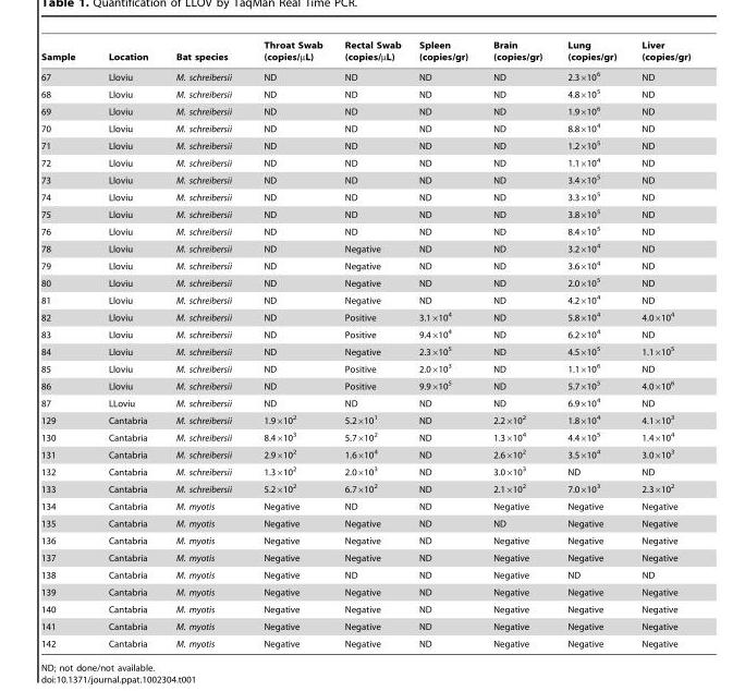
<table><thead><tr><td>Sample</td><td>Location</td><td>Bat species</td><td>Throat Swab (copies/µL)</td><td>Rectal Swab (copies/µL)</td><td>Spleen (copies/gr)</td><td>Brain (copies/gr)</td><td>Lung (copies/gr)</td><td>Liver (copies/gr)</td></tr></thead><tbody><tr><td>67</td><td>Lloviu</td><td>M. schreibersii</td><td>ND</td><td>ND</td><td>ND</td><td>ND</td><td>2.3×10<sup>6</sup></td><td>ND</td></tr><tr><td>68</td><td>Lloviu</td><td>M. schreibersii</td><td>ND</td><td>ND</td><td>ND</td><td>ND</td><td>4.8×10<sup>5</sup></td><td>ND</td></tr><tr><td>69</td><td>Lloviu</td><td>M. schreibersii</td><td>ND</td><td>ND</td><td>ND</td><td>ND</td><td>1.9×10<sup>6</sup></td><td>ND</td></tr><tr><td>70</td><td>Lloviu</td><td>M. schreibersii</td><td>ND</td><td>ND</td><td>ND</td><td>ND</td><td>8.8×10<sup>4</sup></td><td>ND</td></tr><tr><td>71</td><td>Lloviu</td><td>M. schreibersii</td><td>ND</td><td>ND</td><td>ND</td><td>ND</td><td>1.2×10<sup>5</sup></td><td>ND</td></tr><tr><td>72</td><td>Lloviu</td><td>M. schreibersii</td><td>ND</td><td>ND</td><td>ND</td><td>ND</td><td>1.1×10<sup>4</sup></td><td>ND</td></tr><tr><td>73</td><td>Lloviu</td><td>M. schreibersii</td><td>ND</td><td>ND</td><td>ND</td><td>ND</td><td>3.4×10<sup>5</sup></td><td>ND</td></tr><tr><td>74</td><td>Lloviu</td><td>M. schreibersii</td><td>ND</td><td>ND</td><td>ND</td><td>ND</td><td>3.3×10<sup>5</sup></td><td>ND</td></tr><tr><td>75</td><td>Lloviu</td><td>M. schreibersii</td><td>ND</td><td>ND</td><td>ND</td><td>ND</td><td>3.8×10<sup>5</sup></td><td>ND</td></tr><tr><td>76</td><td>Lloviu</td><td>M. schreibersii</td><td>ND</td><td>ND</td><td>ND</td><td>ND</td><td>8.4×10<sup>5</sup></td><td>ND</td></tr><tr><td>78</td><td>Lloviu</td><td>M. schreibersii</td><td>ND</td><td>Negative</td><td>ND</td><td>ND</td><td>3.2×10<sup>4</sup></td><td>ND</td></tr><tr><td>79</td><td>Lloviu</td><td>M. schreibersii</td><td>ND</td><td>Negative</td><td>ND</td><td>ND</td><td>3.6×10<sup>4</sup></td><td>ND</td></tr><tr><td>80</td><td>Lloviu</td><td>M. schreibersii</td><td>ND</td><td>Negative</td><td>ND</td><td>ND</td><td>2.0×10<sup>5</sup></td><td>ND</td></tr><tr><td>81</td><td>Lloviu</td><td>M. schreibersii</td><td>ND</td><td>Negative</td><td>ND</td><td>ND</td><td>4.2×10<sup>4</sup></td><td>ND</td></tr><tr><td>82</td><td>Lloviu</td><td>M. schreibersii</td><td>ND</td><td>Positive</td><td>3.1×10<sup>4</sup></td><td>ND</td><td>5.8×10<sup>4</sup></td><td>4.0×10<sup>4</sup></td></tr><tr><td>83</td><td>Lloviu</td><td>M. schreibersii</td><td>ND</td><td>Positive</td><td>9.4×10<sup>4</sup></td><td>ND</td><td>6.2×10<sup>4</sup></td><td>ND</td></tr><tr><td>84</td><td>Lloviu</td><td>M. schreibersii</td><td>ND</td><td>Negative</td><td>2.3×10<sup>5</sup></td><td>ND</td><td>4.5×10<sup>5</sup></td><td>1.1×10<sup>5</sup></td></tr><tr><td>85</td><td>Lloviu</td><td>M. schreibersii</td><td>ND</td><td>Positive</td><td>2.0×10<sup>3</sup></td><td>ND</td><td>1.1×10<sup>6</sup></td><td>ND</td></tr><tr><td>86</td><td>Lloviu</td><td>M. schreibersii</td><td>ND</td><td>Positive</td><td>9.9×10<sup>5</sup></td><td>ND</td><td>5.7×10<sup>5</sup></td><td>4.0×10<sup>6</sup></td></tr><tr><td>87</td><td>LLoviu</td><td>M. schreibersii</td><td>ND</td><td>ND</td><td>ND</td><td>ND</td><td>6.9×10<sup>4</sup></td><td>ND</td></tr><tr><td>129</td><td>Cantabria</td><td>M. schreibersii</td><td>1.9×10<sup>2</sup></td><td>5.2×10<sup>1</sup></td><td>ND</td><td>2.2×10<sup>2</sup></td><td>1.8×10<sup>4</sup></td><td>4.1×10<sup>3</sup></td></tr><tr><td>130</td><td>Cantabria</td><td>M. schreibersii</td><td>8.4×10<sup>3</sup></td><td>5.7×10<sup>2</sup></td><td>ND</td><td>1.3×10<sup>4</sup></td><td>4.4×10<sup>5</sup></td><td>1.4×10<sup>4</sup></td></tr><tr><td>131</td><td>Cantabria</td><td>M. schreibersii</td><td>2.9×10<sup>2</sup></td><td>1.6×10<sup>4</sup></td><td>ND</td><td>2.6×10<sup>2</sup></td><td>3.5×10<sup>4</sup></td><td>3.0×10<sup>3</sup></td></tr><tr><td>132</td><td>Cantabria</td><td>M. schreibersii</td><td>1.3×10<sup>2</sup></td><td>2.0×10<sup>3</sup></td><td>ND</td><td>3.0×10<sup>3</sup></td><td>ND</td><td>ND</td></tr><tr><td>133</td><td>Cantabria</td><td>M. schreibersii</td><td>5.2×10<sup>2</sup></td><td>6.7×10<sup>2</sup></td><td>ND</td><td>2.1×10<sup>2</sup></td><td>7.0×10<sup>3</sup></td><td>2.3×10<sup>2</sup></td></tr><tr><td>134</td><td>Cantabria</td><td>M. myotis</td><td>Negative</td><td>ND</td><td>ND</td><td>Negative</td><td>Negative</td><td>Negative</td></tr><tr><td>135</td><td>Cantabria</td><td>M. myotis</td><td>Negative</td><td>Negative</td><td>ND</td><td>ND</td><td>Negative</td><td>Negative</td></tr><tr><td>136</td><td>Cantabria</td><td>M. myotis</td><td>Negative</td><td>Negative</td><td>ND</td><td>Negative</td><td>Negative</td><td>Negative</td></tr><tr><td>137</td><td>Cantabria</td><td>M. myotis</td><td>Negative</td><td>Negative</td><td>ND</td><td>Negative</td><td>Negative</td><td>Negative</td></tr><tr><td>138</td><td>Cantabria</td><td>M. myotis</td><td>Negative</td><td>ND</td><td>ND</td><td>Negative</td><td>ND</td><td>ND</td></tr><tr><td>139</td><td>Cantabria</td><td>M. myotis</td><td>Negative</td><td>Negative</td><td>ND</td><td>Negative</td><td>Negative</td><td>Negative</td></tr><tr><td>140</td><td>Cantabria</td><td>M. myotis</td><td>Negative</td><td>Negative</td><td>ND</td><td>Negative</td><td>Negative</td><td>Negative</td></tr><tr><td>141</td><td>Cantabria</td><td>M. myotis</td><td>Negative</td><td>Negative</td><td>ND</td><td>Negative</td><td>Negative</td><td>Negative</td></tr><tr><td>142</td><td>Cantabria</td><td>M. myotis</td><td>Negative</td><td>Negative</td><td>ND</td><td>Negative</td><td>Negative</td><td>Negative</td></tr></tbody></table>